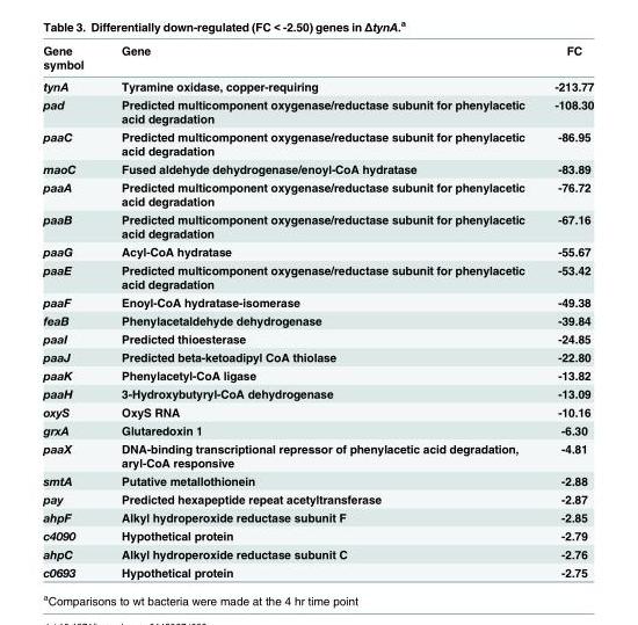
<table><thead><tr><td>Gene symbol</td><td>Gene</td><td>FC</td></tr></thead><tbody><tr><td>tynA</td><td>Tyramine oxidase, copper-requiring</td><td>-213.77</td></tr><tr><td>pad</td><td>Predicted multicomponent oxygenase/reductase subunit for phenylacetic acid degradation</td><td>-108.30</td></tr><tr><td>paaC</td><td>Predicted multicomponent oxygenase/reductase subunit for phenylacetic acid degradation</td><td>-86.95</td></tr><tr><td>maoC</td><td>Fused aldehyde dehydrogenase/enoyl-CoA hydratase</td><td>-83.89</td></tr><tr><td>paaA</td><td>Predicted multicomponent oxygenase/reductase subunit for phenylacetic acid degradation</td><td>-76.72</td></tr><tr><td>paaB</td><td>Predicted multicomponent oxygenase/reductase subunit for phenylacetic acid degradation</td><td>-67.16</td></tr><tr><td>paaG</td><td>Acyl-CoA hydratase</td><td>-55.67</td></tr><tr><td>paaE</td><td>Predicted multicomponent oxygenase/reductase subunit for phenylacetic acid degradation</td><td>-53.42</td></tr><tr><td>paaF</td><td>Enoyl-CoA hydratase-isomerase</td><td>-49.38</td></tr><tr><td>feaB</td><td>Phenylacetaldehyde dehydrogenase</td><td>-39.84</td></tr><tr><td>paaI</td><td>Predicted thioesterase</td><td>-24.85</td></tr><tr><td>paaJ</td><td>Predicted beta-ketoadipyl CoA thiolase</td><td>-22.80</td></tr><tr><td>paaK</td><td>Phenylacetyl-CoA ligase</td><td>-13.82</td></tr><tr><td>paaH</td><td>3-Hydroxybutyryl-CoA dehydrogenase</td><td>-13.09</td></tr><tr><td>oxyS</td><td>OxyS RNA</td><td>-10.16</td></tr><tr><td>grxA</td><td>Glutaredoxin 1</td><td>-6.30</td></tr><tr><td>paaX</td><td>DNA-binding transcriptional repressor of phenylacetic acid degradation, aryl-CoA responsive</td><td>-4.81</td></tr><tr><td>smtA</td><td>Putative metallothionein</td><td>-2.88</td></tr><tr><td>pay</td><td>Predicted hexapeptide repeat acetyltransferase</td><td>-2.87</td></tr><tr><td>ahpF</td><td>Alkyl hydroperoxide reductase subunit F</td><td>-2.85</td></tr><tr><td>c4090</td><td>Hypothetical protein</td><td>-2.79</td></tr><tr><td>ahpC</td><td>Alkyl hydroperoxide reductase subunit C</td><td>-2.76</td></tr><tr><td>c0693</td><td>Hypothetical protein</td><td>-2.75</td></tr></tbody></table>